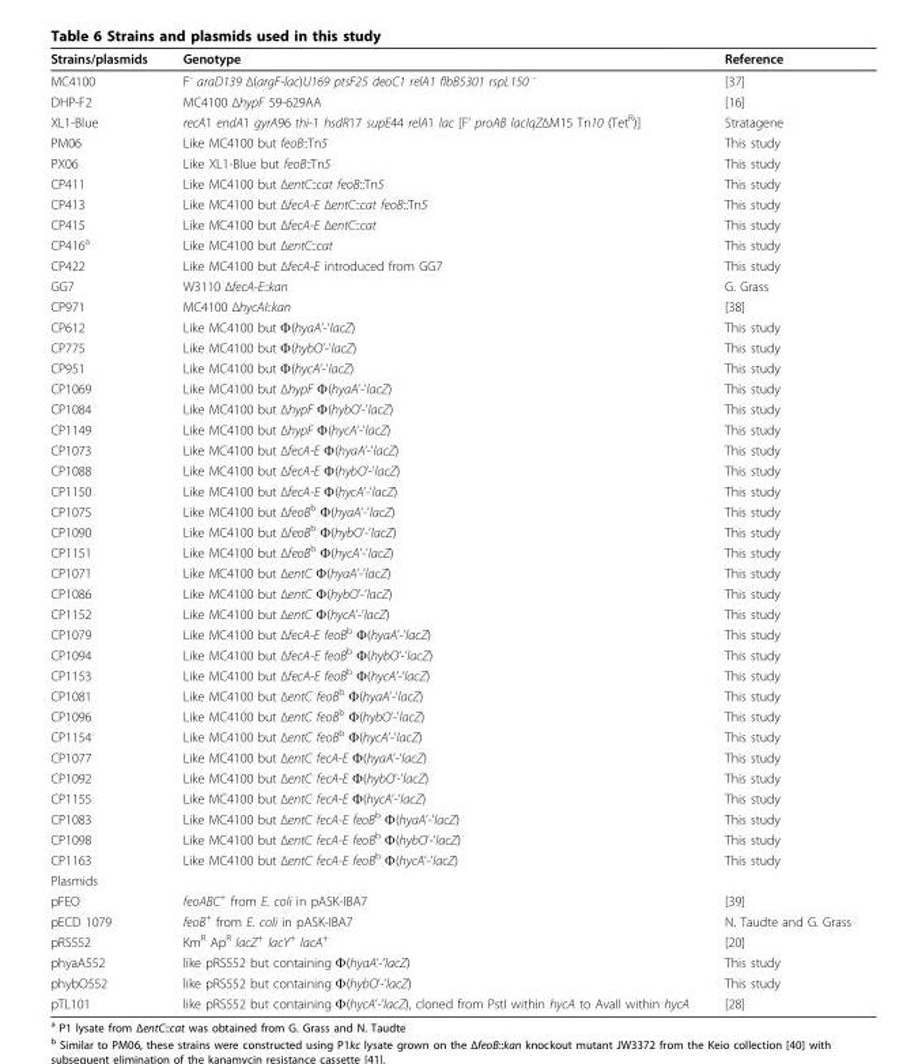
<table><thead><tr><td>Strains/plasmids</td><td>Genotype</td><td>Reference</td></tr></thead><tbody><tr><td>MC4100</td><td>F<sup>-</sup> araD139 Δ(argF-lac)U169 ptsF25 deoC1 relA1 flbB5301 rspL150 <sup>-</sup></td><td>[37]</td></tr><tr><td>DHP-F2</td><td>MC4100 ΔhypF 59-629AA</td><td>[16]</td></tr><tr><td>XL1-Blue</td><td>recA1 endA1 gyrA96 thi-1 hsdR17 supE44 relA1 lac [F’ proAB lacIqZΔM15 Tn10 (Tet<sup>R</sup>)]</td><td>Stratagene</td></tr><tr><td>PM06</td><td>Like MC4100 but feoB::Tn5</td><td>This study</td></tr><tr><td>PX06</td><td>Like XL1-Blue but feoB::Tn5</td><td>This study</td></tr><tr><td>CP411</td><td>Like MC4100 but ΔentC::cat feoB::Tn5</td><td>This study</td></tr><tr><td>CP413</td><td>Like MC4100 but ΔfecA-E ΔentC::cat feoB::Tn5</td><td>This study</td></tr><tr><td>CP415</td><td>Like MC4100 but ΔfecA-E ΔentC::cat</td><td>This study</td></tr><tr><td>CP416<sup>a</sup></td><td>Like MC4100 but ΔentC::cat</td><td>This study</td></tr><tr><td>CP422</td><td>Like MC4100 but ΔfecA-E introduced from GG7</td><td>This study</td></tr><tr><td>GG7</td><td>W3110 ΔfecA-E::kan</td><td>G. Grass</td></tr><tr><td>CP971</td><td>MC4100 ΔhycAI::kan</td><td>[38]</td></tr><tr><td>CP612</td><td>Like MC4100 but Φ(hyaA’-’lacZ)</td><td>This study</td></tr><tr><td>CP775</td><td>Like MC4100 but Φ(hybO’-’lacZ)</td><td>This study</td></tr><tr><td>CP951</td><td>Like MC4100 but Φ(hycA’-’lacZ)</td><td>This study</td></tr><tr><td>CP1069</td><td>Like MC4100 but ΔhypF Φ(hyaA’-’lacZ)</td><td>This study</td></tr><tr><td>CP1084</td><td>Like MC4100 but ΔhypF Φ(hybO’-’lacZ)</td><td>This study</td></tr><tr><td>CP1149</td><td>Like MC4100 but ΔhypF Φ(hycA’-’lacZ)</td><td>This study</td></tr><tr><td>CP1073</td><td>Like MC4100 but ΔfecA-E Φ(hyaA’-’lacZ)</td><td>This study</td></tr><tr><td>CP1088</td><td>Like MC4100 but ΔfecA-E Φ(hybO’-’lacZ)</td><td>This study</td></tr><tr><td>CP1150</td><td>Like MC4100 but ΔfecA-E Φ(hycA’-’lacZ)</td><td>This study</td></tr><tr><td>CP1075</td><td>Like MC4100 but ΔfeoB<sup>b</sup> Φ(hyaA’-’lacZ)</td><td>This study</td></tr><tr><td>CP1090</td><td>Like MC4100 but ΔfeoB<sup>b</sup> Φ(hybO’-’lacZ)</td><td>This study</td></tr><tr><td>CP1151</td><td>Like MC4100 but ΔfeoB<sup>b</sup> Φ(hycA’-’lacZ)</td><td>This study</td></tr><tr><td>CP1071</td><td>Like MC4100 but ΔentC Φ(hyaA’-’lacZ)</td><td>This study</td></tr><tr><td>CP1086</td><td>Like MC4100 but ΔentC Φ(hybO’-’lacZ)</td><td>This study</td></tr><tr><td>CP1152</td><td>Like MC4100 but ΔentC Φ(hycA’-’lacZ)</td><td>This study</td></tr><tr><td>CP1079</td><td>Like MC4100 but ΔfecA-E feoB<sup>b</sup> Φ(hyaA’-’lacZ)</td><td>This study</td></tr><tr><td>CP1094</td><td>Like MC4100 but ΔfecA-E feoB<sup>b</sup> Φ(hybO’-’lacZ)</td><td>This study</td></tr><tr><td>CP1153</td><td>Like MC4100 but ΔfecA-E feoB<sup>b</sup> Φ(hycA’-’lacZ)</td><td>This study</td></tr><tr><td>CP1081</td><td>Like MC4100 but ΔentC feoB<sup>b</sup> Φ(hyaA’-’lacZ)</td><td>This study</td></tr><tr><td>CP1096</td><td>Like MC4100 but ΔentC feoB<sup>b</sup> Φ(hybO’-’lacZ)</td><td>This study</td></tr><tr><td>CP1154</td><td>Like MC4100 but ΔentC feoB<sup>b</sup> Φ(hycA’-’lacZ)</td><td>This study</td></tr><tr><td>CP1077</td><td>Like MC4100 but ΔentC fecA-E Φ(hyaA’-’lacZ)</td><td>This study</td></tr><tr><td>CP1092</td><td>Like MC4100 but ΔentC fecA-E Φ(hybO’-’lacZ)</td><td>This study</td></tr><tr><td>CP1155</td><td>Like MC4100 but ΔentC fecA-E Φ(hycA’-’lacZ)</td><td>This study</td></tr><tr><td>CP1083</td><td>Like MC4100 but ΔentC fecA-E feoB<sup>b</sup> Φ(hyaA’-’lacZ)</td><td>This study</td></tr><tr><td>CP1098</td><td>Like MC4100 but ΔentC fecA-E feoB<sup>b</sup> Φ(hybO’-’lacZ)</td><td>This study</td></tr><tr><td>CP1163</td><td>Like MC4100 but ΔentC fecA-E feoB<sup>b</sup> Φ(hycA’-’lacZ)</td><td>This study</td></tr><tr><td colspan="3">Plasmids</td></tr><tr><td>pFEO</td><td>feoABC<sup>+</sup> from E. coli in pASK-IBA7</td><td>[39]</td></tr><tr><td>pECD 1079</td><td>feoB<sup>+</sup> from E. coli in pASK-IBA7</td><td>N. Taudte and G. Grass</td></tr><tr><td>pRS552</td><td>Km<sup>R</sup> Ap<sup>R</sup> lacZ<sup>+</sup> lacY<sup>+</sup> lacA<sup>+</sup></td><td>[20]</td></tr><tr><td>phyaA552</td><td>like pRS552 but containing Φ(hyaA’-’lacZ)</td><td>This study</td></tr><tr><td>phybO552</td><td>like pRS552 but containing Φ(hybO’-’lacZ)</td><td>This study</td></tr><tr><td>pTL101</td><td>like pRS552 but containing Φ(hycA’-’lacZ), cloned from PstI within hycA to AvaII within hycA</td><td>[28]</td></tr></tbody></table>